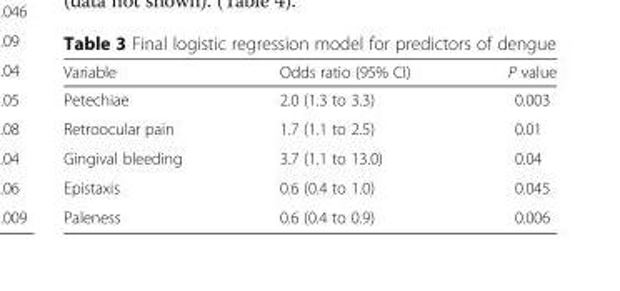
<table><thead><tr><td>Variable</td><td>Odds ratio (95% CI)</td><td>P value</td></tr></thead><tbody><tr><td>Petechiae</td><td>2.0 (1.3 to 3.3)</td><td>0.003</td></tr><tr><td>Retroocular pain</td><td>1.7 (1.1 to 2.5)</td><td>0.01</td></tr><tr><td>Gingival bleeding</td><td>3.7 (1.1 to 13.0)</td><td>0.04</td></tr><tr><td>Epistaxis</td><td>0.6 (0.4 to 1.0)</td><td>0.045</td></tr><tr><td>Paleness</td><td>0.6 (0.4 to 0.9)</td><td>0.006</td></tr></tbody></table>